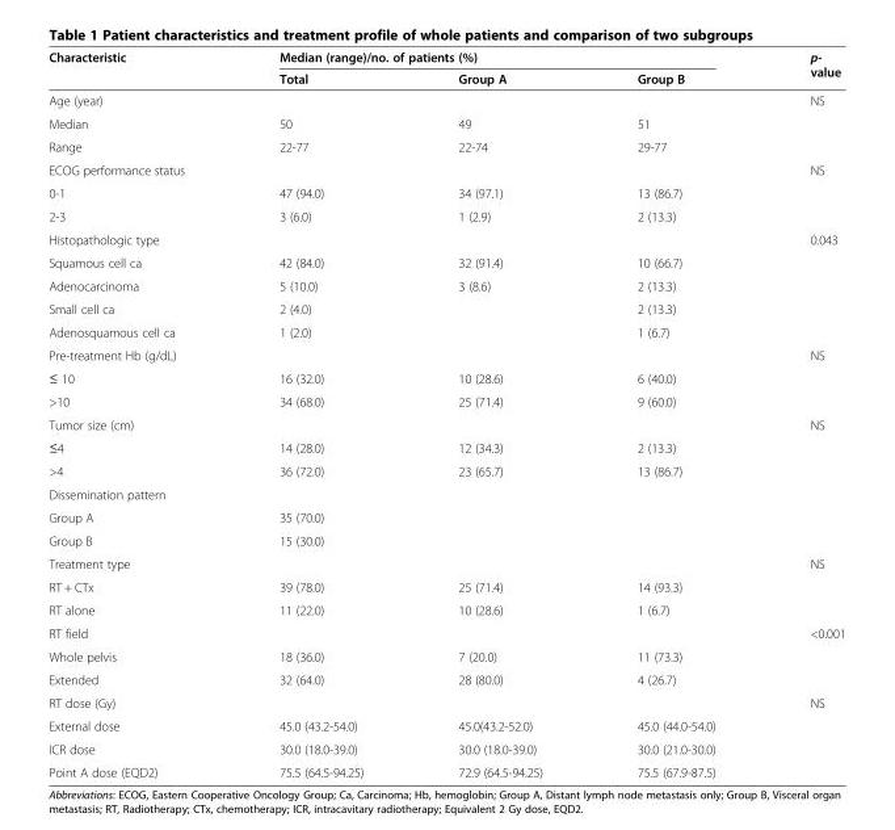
<table><thead><tr><td rowspan="2">Characteristic</td><td colspan="3">Median (range)/no. of patients (%)</td><td rowspan="2">p- value</td></tr><tr><td>Total</td><td>Group A</td><td>Group B</td></tr></thead><tbody><tr><td>Age (year)</td><td></td><td></td><td></td><td>NS</td></tr><tr><td>Median</td><td>50</td><td>49</td><td>51</td><td></td></tr><tr><td>Range</td><td>22-77</td><td>22-74</td><td>29-77</td><td></td></tr><tr><td>ECOG performance status</td><td></td><td></td><td></td><td>NS</td></tr><tr><td>0-1</td><td>47 (94.0)</td><td>34 (97.1)</td><td>13 (86.7)</td><td></td></tr><tr><td>2-3</td><td>3 (6.0)</td><td>1 (2.9)</td><td>2 (13.3)</td><td></td></tr><tr><td>Histopathologic type</td><td></td><td></td><td></td><td>0.043</td></tr><tr><td>Squamous cell ca</td><td>42 (84.0)</td><td>32 (91.4)</td><td>10 (66.7)</td><td></td></tr><tr><td>Adenocarcinoma</td><td>5 (10.0)</td><td>3 (8.6)</td><td>2 (13.3)</td><td></td></tr><tr><td>Small cell ca</td><td>2 (4.0)</td><td></td><td>2 (13.3)</td><td></td></tr><tr><td>Adenosquamous cell ca</td><td>1 (2.0)</td><td></td><td>1 (6.7)</td><td></td></tr><tr><td>Pre-treatment Hb (g/dL)</td><td></td><td></td><td></td><td>NS</td></tr><tr><td>≤ 10</td><td>16 (32.0)</td><td>10 (28.6)</td><td>6 (40.0)</td><td></td></tr><tr><td>&gt;10</td><td>34 (68.0)</td><td>25 (71.4)</td><td>9 (60.0)</td><td></td></tr><tr><td>Tumor size (cm)</td><td></td><td></td><td></td><td>NS</td></tr><tr><td>≤4</td><td>14 (28.0)</td><td>12 (34.3)</td><td>2 (13.3)</td><td></td></tr><tr><td>&gt;4</td><td>36 (72.0)</td><td>23 (65.7)</td><td>13 (86.7)</td><td></td></tr><tr><td colspan="5">Dissemination pattern</td></tr><tr><td>Group A</td><td>35 (70.0)</td><td></td><td></td><td></td></tr><tr><td>Group B</td><td>15 (30.0)</td><td></td><td></td><td></td></tr><tr><td>Treatment type</td><td></td><td></td><td></td><td>NS</td></tr><tr><td>RT + CTx</td><td>39 (78.0)</td><td>25 (71.4)</td><td>14 (93.3)</td><td></td></tr><tr><td>RT alone</td><td>11 (22.0)</td><td>10 (28.6)</td><td>1 (6.7)</td><td></td></tr><tr><td>RT field</td><td></td><td></td><td></td><td>&lt;0.001</td></tr><tr><td>Whole pelvis</td><td>18 (36.0)</td><td>7 (20.0)</td><td>11 (73.3)</td><td></td></tr><tr><td>Extended</td><td>32 (64.0)</td><td>28 (80.0)</td><td>4 (26.7)</td><td></td></tr><tr><td>RT dose (Gy)</td><td></td><td></td><td></td><td>NS</td></tr><tr><td>External dose</td><td>45.0 (43.2-54.0)</td><td>45.0(43.2-52.0)</td><td>45.0 (44.0-54.0)</td><td></td></tr><tr><td>ICR dose</td><td>30.0 (18.0-39.0)</td><td>30.0 (18.0-39.0)</td><td>30.0 (21.0-30.0)</td><td></td></tr><tr><td>Point A dose (EQD2)</td><td>75.5 (64.5-94.25)</td><td>72.9 (64.5-94.25)</td><td>75.5 (67.9-87.5)</td><td></td></tr></tbody></table>